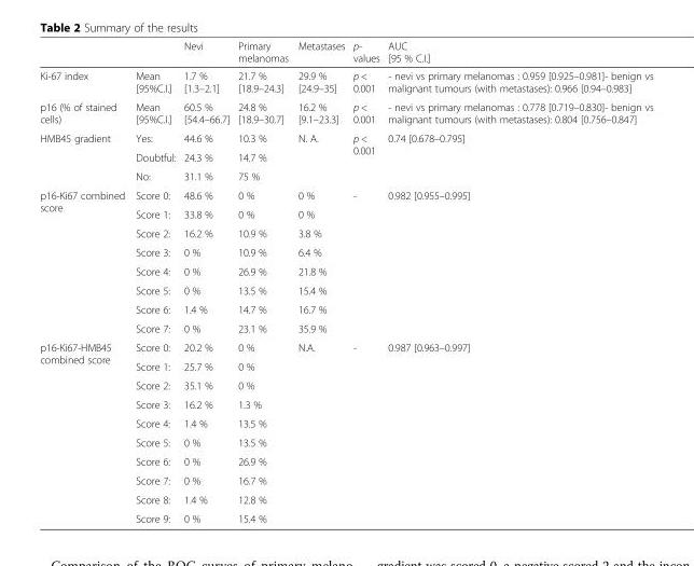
<table><thead><tr><td></td><td></td><td>Nevi</td><td>Primary melanomas</td><td>Metastases</td><td>p- values</td><td>AUC [95 % C.I.]</td></tr></thead><tbody><tr><td>Ki-67 index</td><td>Mean [95%C.I.]</td><td>1.7 % [1.3–2.1]</td><td>21.7 % [18.9–24.3]</td><td>29.9 % [24.9–35]</td><td>p &lt; 0.001</td><td>- nevi vs primary melanomas : 0.959 [0.925–0.981]- benign vs malignant tumours (with metastases): 0.966 [0.94–0.983]</td></tr><tr><td>p16 (% of stained cells)</td><td>Mean [95%C.I.]</td><td>60.5 % [54.4–66.7]</td><td>24.8 % [18.9–30.7]</td><td>16.2 % [9.1–23.3]</td><td>p &lt; 0.001</td><td>- nevi vs primary melanomas : 0.778 [0.719–0.830]- benign vs malignant tumours (with metastases): 0.804 [0.756–0.847]</td></tr><tr><td rowspan="3">HMB45 gradient</td><td>Yes:</td><td>44.6 %</td><td>10.3 %</td><td rowspan="3">N. A.</td><td rowspan="3">p &lt; 0.001</td><td rowspan="3">0.74 [0.678–0.795]</td></tr><tr><td>Doubtful:</td><td>24.3 %</td><td>14.7 %</td></tr><tr><td>No:</td><td>31.1 %</td><td>75 %</td></tr><tr><td rowspan="8">p16-Ki67 combined score</td><td>Score 0:</td><td>48.6 %</td><td>0 %</td><td>0 %</td><td rowspan="8">-</td><td rowspan="8">0.982 [0.955–0.995]</td></tr><tr><td>Score 1:</td><td>33.8 %</td><td>0 %</td><td>0 %</td></tr><tr><td>Score 2:</td><td>16.2 %</td><td>10.9 %</td><td>3.8 %</td></tr><tr><td>Score 3:</td><td>0 %</td><td>10.9 %</td><td>6.4 %</td></tr><tr><td>Score 4:</td><td>0 %</td><td>26.9 %</td><td>21.8 %</td></tr><tr><td>Score 5:</td><td>0 %</td><td>13.5 %</td><td>15.4 %</td></tr><tr><td>Score 6:</td><td>1.4 %</td><td>14.7 %</td><td>16.7 %</td></tr><tr><td>Score 7:</td><td>0 %</td><td>23.1 %</td><td>35.9 %</td></tr><tr><td rowspan="10">p16-Ki67-HMB45 combined score</td><td>Score 0:</td><td>20.2 %</td><td>0 %</td><td rowspan="10">N.A.</td><td rowspan="10">-</td><td rowspan="10">0.987 [0.963–0.997]</td></tr><tr><td>Score 1:</td><td>25.7 %</td><td>0 %</td></tr><tr><td>Score 2:</td><td>35.1 %</td><td>0 %</td></tr><tr><td>Score 3:</td><td>16.2 %</td><td>1.3 %</td></tr><tr><td>Score 4:</td><td>1.4 %</td><td>13.5 %</td></tr><tr><td>Score 5:</td><td>0 %</td><td>13.5 %</td></tr><tr><td>Score 6:</td><td>0 %</td><td>26.9 %</td></tr><tr><td>Score 7:</td><td>0 %</td><td>16.7 %</td></tr><tr><td>Score 8:</td><td>1.4 %</td><td>12.8 %</td></tr><tr><td>Score 9:</td><td>0 %</td><td>15.4 %</td></tr></tbody></table>